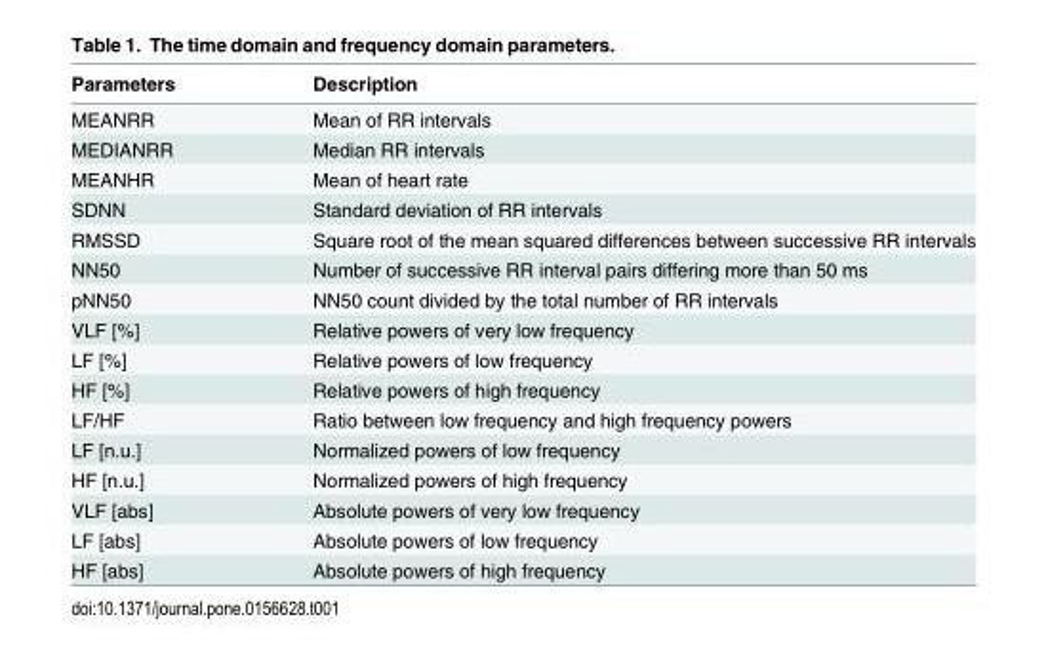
<table><thead><tr><td>Parameters</td><td>Description</td></tr></thead><tbody><tr><td>MEANRR</td><td>Mean of RR intervals</td></tr><tr><td>MEDIANRR</td><td>Median RR intervals</td></tr><tr><td>MEANHR</td><td>Mean of heart rate</td></tr><tr><td>SDNN</td><td>Standard deviation of RR intervals</td></tr><tr><td>RMSSD</td><td>Square root of the mean squared differences between successive RR intervals</td></tr><tr><td>NN50</td><td>Number of successive RR interval pairs differing more than 50 ms</td></tr><tr><td>pNN50</td><td>NN50 count divided by the total number of RR intervals</td></tr><tr><td>VLF [%]</td><td>Relative powers of very low frequency</td></tr><tr><td>LF [%]</td><td>Relative powers of low frequency</td></tr><tr><td>HF [%]</td><td>Relative powers of high frequency</td></tr><tr><td>LF/HF</td><td>Ratio between low frequency and high frequency powers</td></tr><tr><td>LF [n.u.]</td><td>Normalized powers of low frequency</td></tr><tr><td>HF [n.u.]</td><td>Normalized powers of high frequency</td></tr><tr><td>VLF [abs]</td><td>Absolute powers of very low frequency</td></tr><tr><td>LF [abs]</td><td>Absolute powers of low frequency</td></tr><tr><td>HF [abs]</td><td>Absolute powers of high frequency</td></tr></tbody></table>